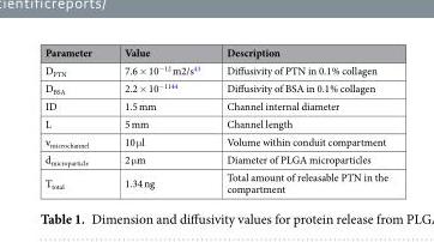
<table><thead><tr><td>Parameter</td><td>Value</td><td>Description</td></tr></thead><tbody><tr><td>D<sub>PTN</sub></td><td>7.6 × 10<sup>−12</sup> m2/s<sup>43</sup></td><td>Diffusivity of PTN in 0.1% collagen</td></tr><tr><td>D<sub>BSA</sub></td><td>2.2 × 10<sup>−1144</sup></td><td>Diffusivity of BSA in 0.1% collagen</td></tr><tr><td>ID</td><td>1.5 mm</td><td>Channel internal diameter</td></tr><tr><td>L</td><td>5 mm</td><td>Channel length</td></tr><tr><td>v<sub>microchannel</sub></td><td>10 μl</td><td>Volume within conduit compartment</td></tr><tr><td>d<sub>microparticle</sub></td><td>2 μm</td><td>Diameter of PLGA microparticles</td></tr><tr><td>T<sub>total</sub></td><td>1.34 ng</td><td>Total amount of releasable PTN in the compartment</td></tr></tbody></table>